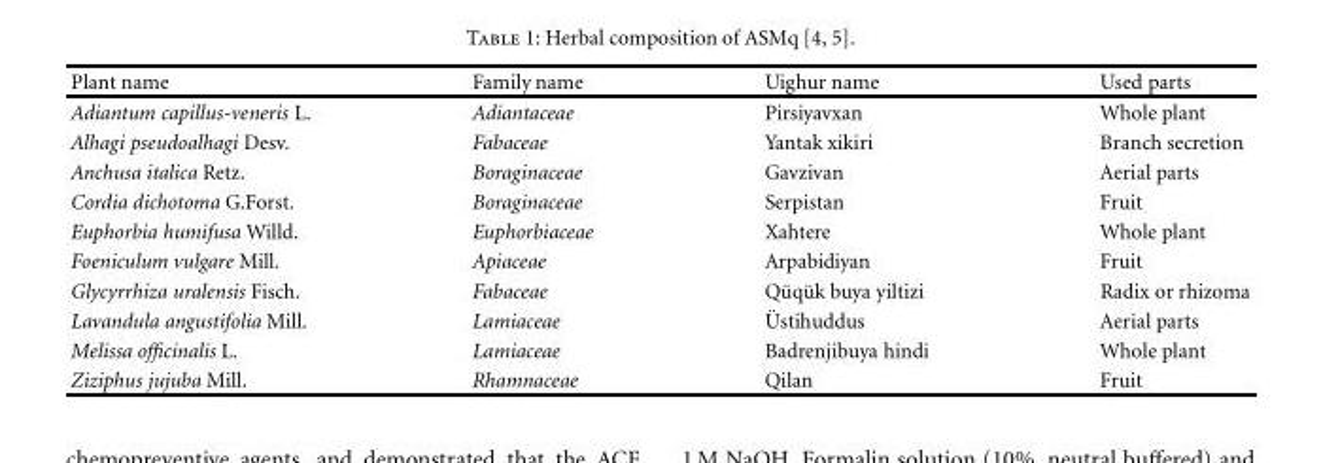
<table><thead><tr><td>Plant name</td><td>Family name</td><td>Uighur name</td><td>Used parts</td></tr></thead><tbody><tr><td>Adiantum capillus-veneris L.</td><td>Adiantaceae</td><td>Pirsiyavxan</td><td>Whole plant</td></tr><tr><td>Alhagi pseudoalhagi Desv.</td><td>Fabaceae</td><td>Yantak xikiri</td><td>Branch secretion</td></tr><tr><td>Anchusa italica Retz.</td><td>Boraginaceae</td><td>Gavzivan</td><td>Aerial parts</td></tr><tr><td>Cordia dichotoma G.Forst.</td><td>Boraginaceae</td><td>Serpistan</td><td>Fruit</td></tr><tr><td>Euphorbia humifusa Willd.</td><td>Euphorbiaceae</td><td>Xahtere</td><td>Whole plant</td></tr><tr><td>Foeniculum vulgare Mill.</td><td>Apiaceae</td><td>Arpabidiyan</td><td>Fruit</td></tr><tr><td>Glycyrrhiza uralensis Fisch.</td><td>Fabaceae</td><td>Q¨uq¨uk buya yiltizi</td><td>Radix or rhizoma</td></tr><tr><td>Lavandula angustifolia Mill.</td><td>Lamiaceae</td><td>¨Ustihuddus</td><td>Aerial parts</td></tr><tr><td>Melissa officinalis L.</td><td>Lamiaceae</td><td>Badrenjibuya hindi</td><td>Whole plant</td></tr><tr><td>Ziziphus jujuba Mill.</td><td>Rhamnaceae</td><td>Qilan</td><td>Fruit</td></tr></tbody></table>